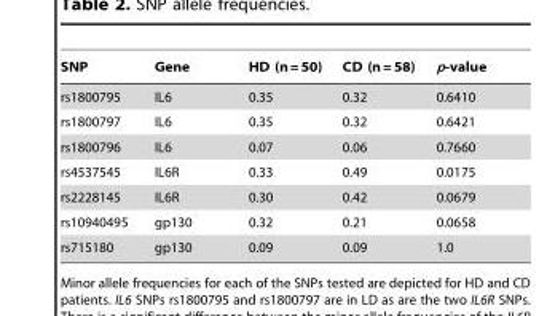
<table><thead><tr><td>SNP</td><td>Gene</td><td>HD (n = 50)</td><td>CD (n = 58)</td><td>p-value</td></tr></thead><tbody><tr><td>rs1800795</td><td>IL6</td><td>0.35</td><td>0.32</td><td>0.6410</td></tr><tr><td>rs1800797</td><td>IL6</td><td>0.35</td><td>0.32</td><td>0.6421</td></tr><tr><td>rs1800796</td><td>IL6</td><td>0.07</td><td>0.06</td><td>0.7660</td></tr><tr><td>rs4537545</td><td>IL6R</td><td>0.33</td><td>0.49</td><td>0.0175</td></tr><tr><td>rs2228145</td><td>IL6R</td><td>0.30</td><td>0.42</td><td>0.0679</td></tr><tr><td>rs10940495</td><td>gp130</td><td>0.32</td><td>0.21</td><td>0.0658</td></tr><tr><td>rs715180</td><td>gp130</td><td>0.09</td><td>0.09</td><td>1.0</td></tr></tbody></table>